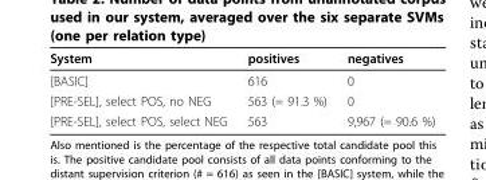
<table><thead><tr><td>System</td><td>positives</td><td>negatives</td></tr></thead><tbody><tr><td>[BASIC]</td><td>616</td><td>0</td></tr><tr><td>[PRE-SEL], select POS, no NEG</td><td>563 (= 91.3 %)</td><td>0</td></tr><tr><td>[PRE-SEL], select POS, select NEG</td><td>563</td><td>9,967 (= 90.6 %)</td></tr></tbody></table>